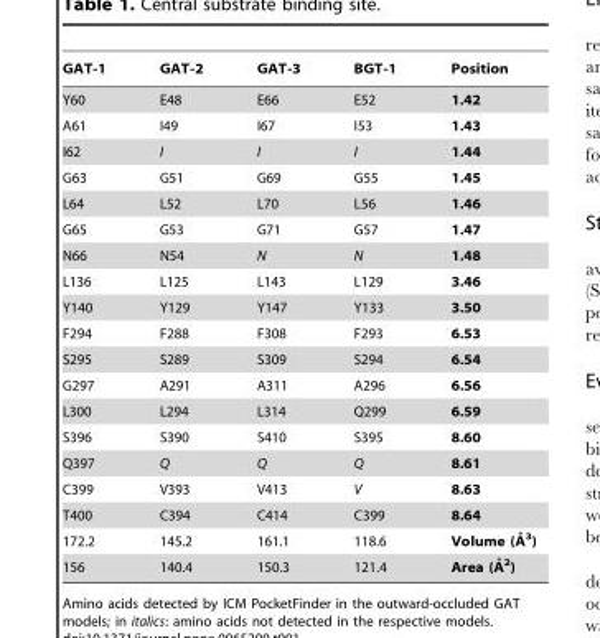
<table><thead><tr><td>GAT-1</td><td>GAT-2</td><td>GAT-3</td><td>BGT-1</td><td>Position</td></tr></thead><tbody><tr><td>Y60</td><td>E48</td><td>E66</td><td>E52</td><td>1.42</td></tr><tr><td>A61</td><td>I49</td><td>I67</td><td>I53</td><td>1.43</td></tr><tr><td>I62</td><td>I</td><td>I</td><td>I</td><td>1.44</td></tr><tr><td>G63</td><td>G51</td><td>G69</td><td>G55</td><td>1.45</td></tr><tr><td>L64</td><td>L52</td><td>L70</td><td>L56</td><td>1.46</td></tr><tr><td>G65</td><td>G53</td><td>G71</td><td>G57</td><td>1.47</td></tr><tr><td>N66</td><td>N54</td><td>N</td><td>N</td><td>1.48</td></tr><tr><td>L136</td><td>L125</td><td>L143</td><td>L129</td><td>3.46</td></tr><tr><td>Y140</td><td>Y129</td><td>Y147</td><td>Y133</td><td>3.50</td></tr><tr><td>F294</td><td>F288</td><td>F308</td><td>F293</td><td>6.53</td></tr><tr><td>S295</td><td>S289</td><td>S309</td><td>S294</td><td>6.54</td></tr><tr><td>G297</td><td>A291</td><td>A311</td><td>A296</td><td>6.56</td></tr><tr><td>L300</td><td>L294</td><td>L314</td><td>Q299</td><td>6.59</td></tr><tr><td>S396</td><td>S390</td><td>S410</td><td>S395</td><td>8.60</td></tr><tr><td>Q397</td><td>Q</td><td>Q</td><td>Q</td><td>8.61</td></tr><tr><td>C399</td><td>V393</td><td>V413</td><td>V</td><td>8.63</td></tr><tr><td>T400</td><td>C394</td><td>C414</td><td>C399</td><td>8.64</td></tr><tr><td>172.2</td><td>145.2</td><td>161.1</td><td>118.6</td><td>Volume (A˚ 3)</td></tr><tr><td>156</td><td>140.4</td><td>150.3</td><td>121.4</td><td>Area (A˚ 2)</td></tr></tbody></table>